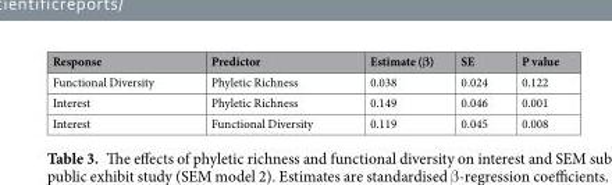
<table><thead><tr><td>Response</td><td>Predictor</td><td>Estimate (β)</td><td>SE</td><td>P value</td></tr></thead><tbody><tr><td>Functional Diversity</td><td>Phyletic Richness</td><td>0.038</td><td>0.024</td><td>0.122</td></tr><tr><td>Interest</td><td>Phyletic Richness</td><td>0.149</td><td>0.046</td><td>0.001</td></tr><tr><td>Interest</td><td>Functional Diversity</td><td>0.119</td><td>0.045</td><td>0.008</td></tr></tbody></table>